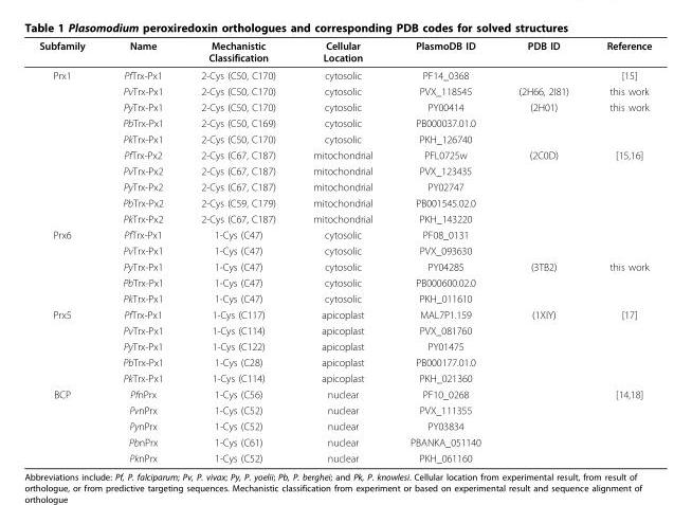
<table><thead><tr><td>Subfamily</td><td>Name</td><td>Mechanistic Classification</td><td>Cellular Location</td><td>PlasmoDB ID</td><td>PDB ID</td><td>Reference</td></tr></thead><tbody><tr><td rowspan="10">Prx1</td><td>PfTrx-Px1</td><td>2-Cys (C50, C170)</td><td>cytosolic</td><td>PF14_0368</td><td></td><td>[15]</td></tr><tr><td>PvTrx-Px1</td><td>2-Cys (C50, C170)</td><td>cytosolic</td><td>PVX_118545</td><td>(2H66, 2I81)</td><td>this work</td></tr><tr><td>PyTrx-Px1</td><td>2-Cys (C50, C170)</td><td>cytosolic</td><td>PY00414</td><td>(2H01)</td><td>this work</td></tr><tr><td>PbTrx-Px1</td><td>2-Cys (C50, C169)</td><td>cytosolic</td><td>PB000037.01.0</td><td></td><td></td></tr><tr><td>PkTrx-Px1</td><td>2-Cys (C50, C170)</td><td>cytosolic</td><td>PKH_126740</td><td></td><td></td></tr><tr><td>PfTrx-Px2</td><td>2-Cys (C67, C187)</td><td>mitochondrial</td><td>PFL0725w</td><td>(2C0D)</td><td>[15,16]</td></tr><tr><td>PvTrx-Px2</td><td>2-Cys (C67, C187)</td><td>mitochondrial</td><td>PVX_123435</td><td></td><td></td></tr><tr><td>PyTrx-Px2</td><td>2-Cys (C67, C187)</td><td>mitochondrial</td><td>PY02747</td><td></td><td></td></tr><tr><td>PbTrx-Px2</td><td>2-Cys (C59, C179)</td><td>mitochondrial</td><td>PB001545.02.0</td><td></td><td></td></tr><tr><td>PkTrx-Px2</td><td>2-Cys (C67, C187)</td><td>mitochondrial</td><td>PKH_143220</td><td></td><td></td></tr><tr><td rowspan="5">Prx6</td><td>PfTrx-Px1</td><td>1-Cys (C47)</td><td>cytosolic</td><td>PF08_0131</td><td></td><td></td></tr><tr><td>PvTrx-Px1</td><td>1-Cys (C47)</td><td>cytosolic</td><td>PVX_093630</td><td></td><td></td></tr><tr><td>PyTrx-Px1</td><td>1-Cys (C47)</td><td>cytosolic</td><td>PY04285</td><td>(3TB2)</td><td>this work</td></tr><tr><td>PbTrx-Px1</td><td>1-Cys (C47)</td><td>cytosolic</td><td>PB000600.02.0</td><td></td><td></td></tr><tr><td>PkTrx-Px1</td><td>1-Cys (C47)</td><td>cytosolic</td><td>PKH_011610</td><td></td><td></td></tr><tr><td rowspan="5">Prx5</td><td>PfTrx-Px1</td><td>1-Cys (C117)</td><td>apicoplast</td><td>MAL7P1.159</td><td>(1XIY)</td><td>[17]</td></tr><tr><td>PvTrx-Px1</td><td>1-Cys (C114)</td><td>apicoplast</td><td>PVX_081760</td><td></td><td></td></tr><tr><td>PyTrx-Px1</td><td>1-Cys (C122)</td><td>apicoplast</td><td>PY01475</td><td></td><td></td></tr><tr><td>PbTrx-Px1</td><td>1-Cys (C28)</td><td>apicoplast</td><td>PB000177.01.0</td><td></td><td></td></tr><tr><td>PkTrx-Px1</td><td>1-Cys (C114)</td><td>apicoplast</td><td>PKH_021360</td><td></td><td></td></tr><tr><td rowspan="5">BCP</td><td>PfnPrx</td><td>1-Cys (C56)</td><td>nuclear</td><td>PF10_0268</td><td></td><td>[14,18]</td></tr><tr><td>PvnPrx</td><td>1-Cys (C52)</td><td>nuclear</td><td>PVX_111355</td><td></td><td></td></tr><tr><td>PynPrx</td><td>1-Cys (C52)</td><td>nuclear</td><td>PY03834</td><td></td><td></td></tr><tr><td>PbnPrx</td><td>1-Cys (C61)</td><td>nuclear</td><td>PBANKA_051140</td><td></td><td></td></tr><tr><td>PknPrx</td><td>1-Cys (C52)</td><td>nuclear</td><td>PKH_061160</td><td></td><td></td></tr></tbody></table>